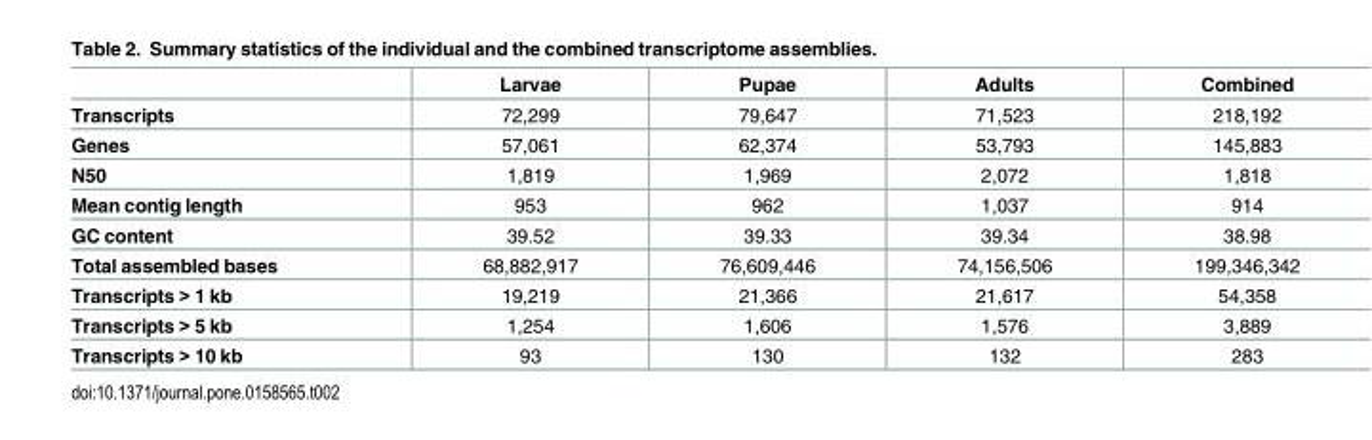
<table><thead><tr><td></td><td>Larvae</td><td>Pupae</td><td>Adults</td><td>Combined</td></tr></thead><tbody><tr><td>Transcripts</td><td>72,299</td><td>79,647</td><td>71,523</td><td>218,192</td></tr><tr><td>Genes</td><td>57,061</td><td>62,374</td><td>53,793</td><td>145,883</td></tr><tr><td>N50</td><td>1,819</td><td>1,969</td><td>2,072</td><td>1,818</td></tr><tr><td>Mean contig length</td><td>953</td><td>962</td><td>1,037</td><td>914</td></tr><tr><td>GC content</td><td>39.52</td><td>39.33</td><td>39.34</td><td>38.98</td></tr><tr><td>Total assembled bases</td><td>68,882,917</td><td>76,609,446</td><td>74,156,506</td><td>199,346,342</td></tr><tr><td>Transcripts &gt; 1 kb</td><td>19,219</td><td>21,366</td><td>21,617</td><td>54,358</td></tr><tr><td>Transcripts &gt; 5 kb</td><td>1,254</td><td>1,606</td><td>1,576</td><td>3,889</td></tr><tr><td>Transcripts &gt; 10 kb</td><td>93</td><td>130</td><td>132</td><td>283</td></tr></tbody></table>